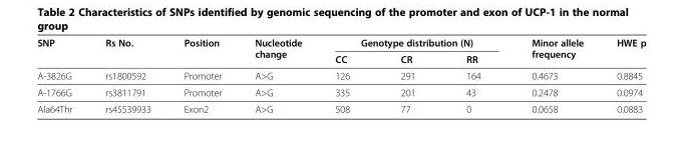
<table><thead><tr><td rowspan="2">SNP</td><td rowspan="2">Rs No.</td><td rowspan="2">Position</td><td rowspan="2">Nucleotide change</td><td colspan="3">Genotype distribution (N)</td><td rowspan="2">Minor allele frequency</td><td rowspan="2">HWE p</td></tr><tr><td>CC</td><td>CR</td><td>RR</td></tr></thead><tbody><tr><td>A-3826G</td><td>rs1800592</td><td>Promoter</td><td>A&gt;G</td><td>126</td><td>291</td><td>164</td><td>0.4673</td><td>0.8845</td></tr><tr><td>A-1766G</td><td>rs3811791</td><td>Promoter</td><td>A&gt;G</td><td>335</td><td>201</td><td>43</td><td>0.2478</td><td>0.0974</td></tr><tr><td>Ala64Thr</td><td>rs45539933</td><td>Exon2</td><td>A&gt;G</td><td>508</td><td>77</td><td>0</td><td>0.0658</td><td>0.0883</td></tr></tbody></table>